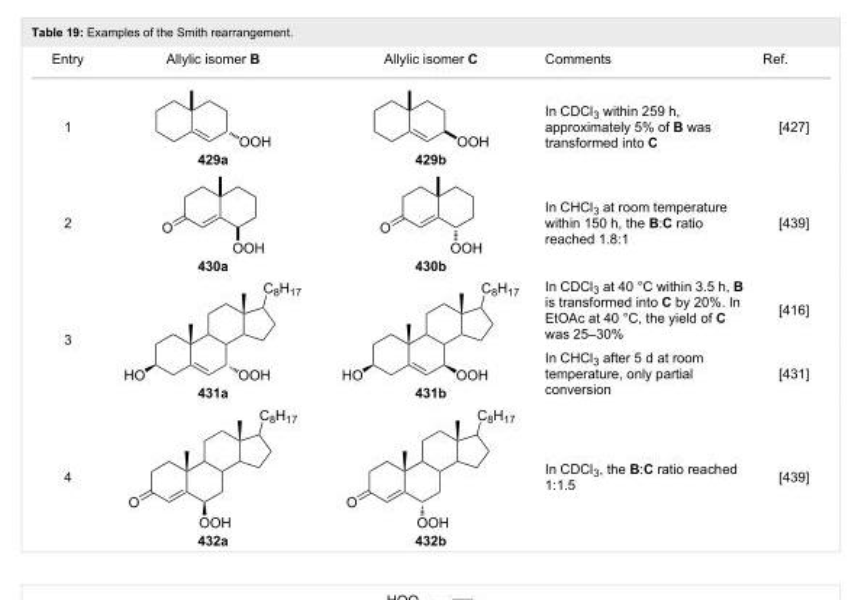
<table><tbody><tr><td>Entry</td><td>Allylic isomer B</td><td>Allylic isomer C</td><td>Comments</td><td>Ref.</td></tr><tr><td>1</td><td>429a</td><td>429b</td><td>In CDCl<sub>3</sub> within 259 h, approximately 5% of B was transformed into C</td><td>[427]</td></tr><tr><td>2</td><td>430a</td><td>430b</td><td>In CHCl<sub>3</sub> at room temperature within 150 h, the B:C ratio reached 1.8:1</td><td>[439]</td></tr><tr><td rowspan="2">3</td><td rowspan="2">431a</td><td rowspan="2">431b</td><td>In CDCl<sub>3</sub> at 40 °C within 3.5 h, B is transformed into C by 20%. In EtOAc at 40 °C, the yield of C was 25–30%</td><td>[416]</td></tr><tr><td>In CHCl<sub>3</sub> after 5 d at room temperature, only partial conversion</td><td>[431]</td></tr><tr><td>4</td><td>432a</td><td>432b</td><td>In CDCl<sub>3</sub>, the B:C ratio reached 1:1.5</td><td>[439]</td></tr></tbody></table>